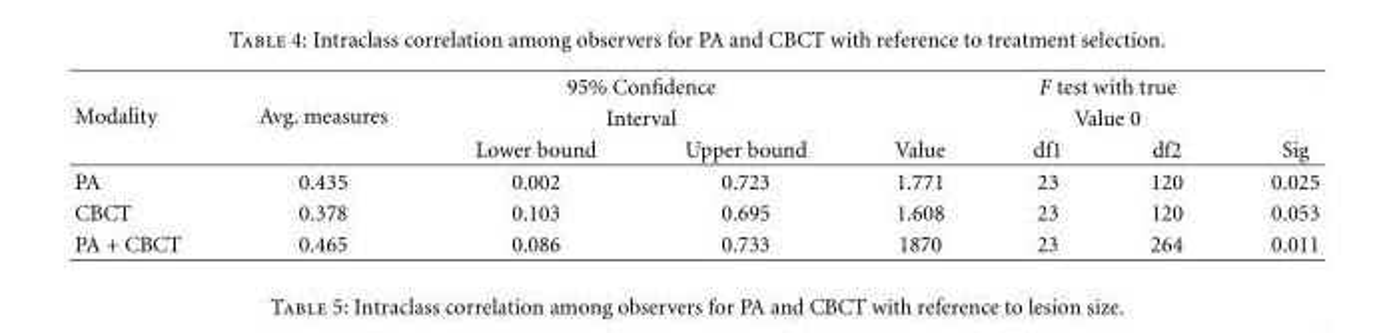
<table><thead><tr><td rowspan="3">Modality</td><td rowspan="3">Avg. measures</td><td rowspan="2" colspan="2">95% Confidence Interval</td><td rowspan="2" colspan="4">F test with true Value 0</td></tr><tr></tr><tr><td>Lower bound</td><td>Upper bound</td><td>Value</td><td>df1</td><td>df2</td><td>Sig</td></tr></thead><tbody><tr><td>PA</td><td>0.435</td><td>0.002</td><td>0.723</td><td>1.771</td><td>23</td><td>120</td><td>0.025</td></tr><tr><td>CBCT</td><td>0.378</td><td>0.103</td><td>0.695</td><td>1.608</td><td>23</td><td>120</td><td>0.053</td></tr><tr><td>PA + CBCT</td><td>0.465</td><td>0.086</td><td>0.733</td><td>1870</td><td>23</td><td>264</td><td>0.011</td></tr></tbody></table>